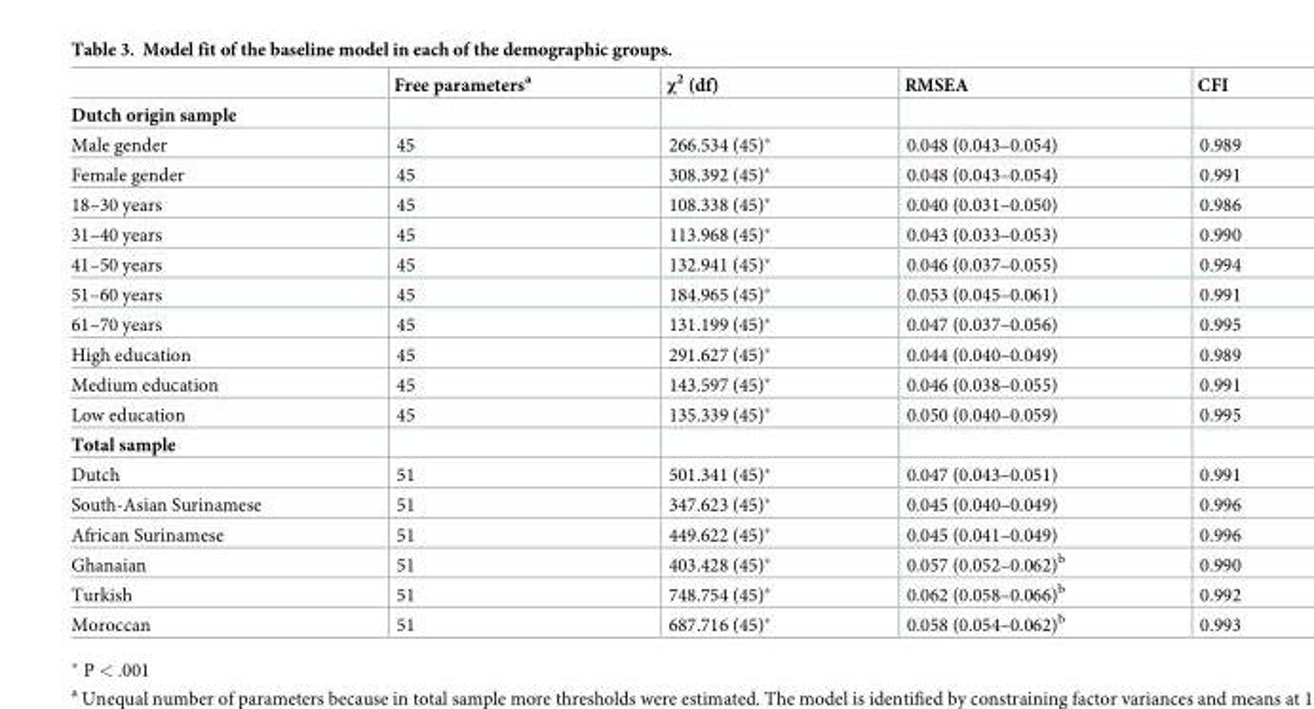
<table><thead><tr><td></td><td>Free parameters<sup>a</sup></td><td>χ<sup>2</sup> (df)</td><td>RMSEA</td><td>CFI</td></tr></thead><tbody><tr><td colspan="5">Dutch origin sample</td></tr><tr><td>Male gender</td><td>45</td><td>266.534 (45)*</td><td>0.048 (0.043–0.054)</td><td>0.989</td></tr><tr><td>Female gender</td><td>45</td><td>308.392 (45)*</td><td>0.048 (0.043–0.054)</td><td>0.991</td></tr><tr><td>18–30 years</td><td>45</td><td>108.338 (45)*</td><td>0.040 (0.031–0.050)</td><td>0.986</td></tr><tr><td>31–40 years</td><td>45</td><td>113.968 (45)*</td><td>0.043 (0.033–0.053)</td><td>0.990</td></tr><tr><td>41–50 years</td><td>45</td><td>132.941 (45)*</td><td>0.046 (0.037–0.055)</td><td>0.994</td></tr><tr><td>51–60 years</td><td>45</td><td>184.965 (45)*</td><td>0.053 (0.045–0.061)</td><td>0.991</td></tr><tr><td>61–70 years</td><td>45</td><td>131.199 (45)*</td><td>0.047 (0.037–0.056)</td><td>0.995</td></tr><tr><td>High education</td><td>45</td><td>291.627 (45)*</td><td>0.044 (0.040–0.049)</td><td>0.989</td></tr><tr><td>Medium education</td><td>45</td><td>143.597 (45)*</td><td>0.046 (0.038–0.055)</td><td>0.991</td></tr><tr><td>Low education</td><td>45</td><td>135.339 (45)*</td><td>0.050 (0.040–0.059)</td><td>0.995</td></tr><tr><td colspan="5">Total sample</td></tr><tr><td>Dutch</td><td>51</td><td>501.341 (45)*</td><td>0.047 (0.043–0.051)</td><td>0.991</td></tr><tr><td>South-Asian Surinamese</td><td>51</td><td>347.623 (45)*</td><td>0.045 (0.040–0.049)</td><td>0.996</td></tr><tr><td>African Surinamese</td><td>51</td><td>449.622 (45)*</td><td>0.045 (0.041–0.049)</td><td>0.996</td></tr><tr><td>Ghanaian</td><td>51</td><td>403.428 (45)*</td><td>0.057 (0.052–0.062)<sup>b</sup></td><td>0.990</td></tr><tr><td>Turkish</td><td>51</td><td>748.754 (45)*</td><td>0.062 (0.058–0.066)<sup>b</sup></td><td>0.992</td></tr><tr><td>Moroccan</td><td>51</td><td>687.716 (45)*</td><td>0.058 (0.054–0.062)<sup>b</sup></td><td>0.993</td></tr></tbody></table>